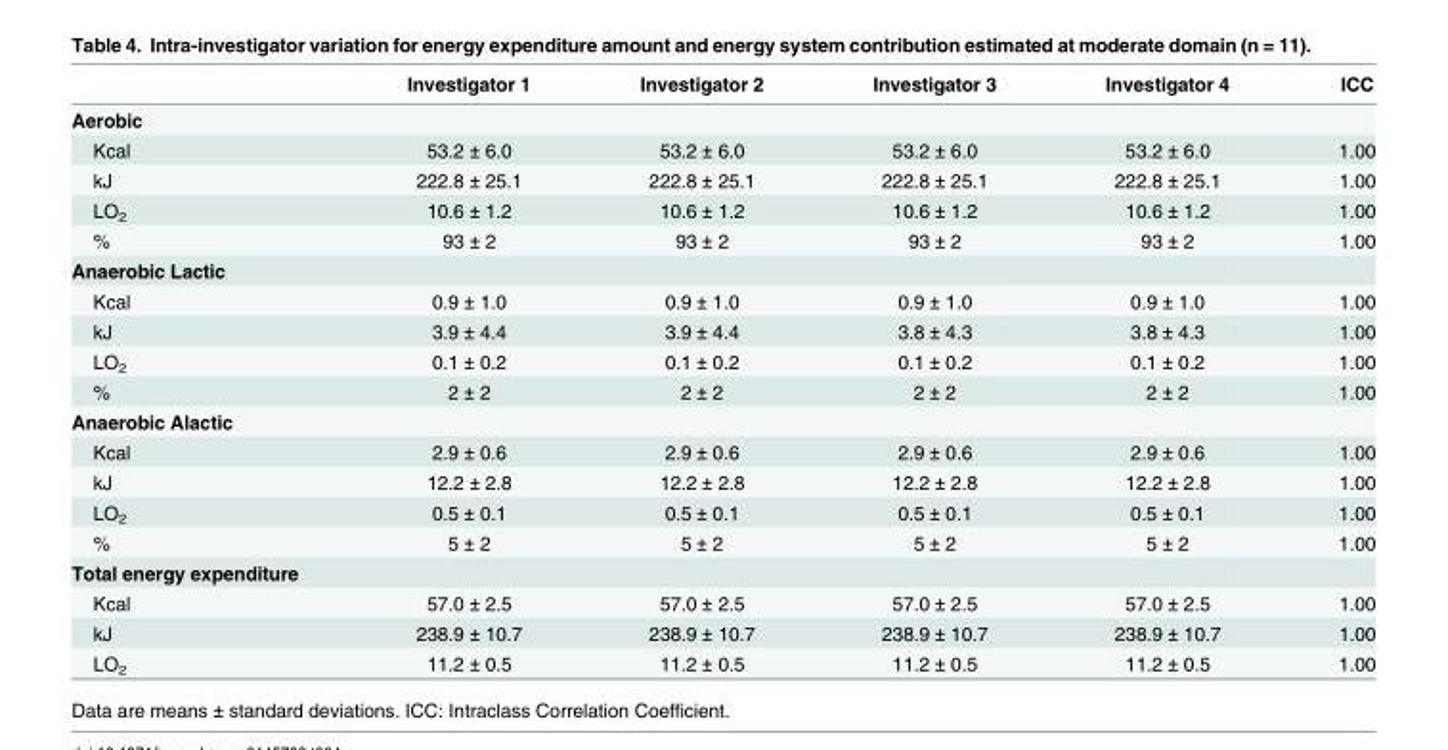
<table><thead><tr><td></td><td>Investigator 1</td><td>Investigator 2</td><td>Investigator 3</td><td>Investigator 4</td><td>ICC</td></tr></thead><tbody><tr><td colspan="6">Aerobic</td></tr><tr><td>Kcal</td><td>53.2 ± 6.0</td><td>53.2 ± 6.0</td><td>53.2 ± 6.0</td><td>53.2 ± 6.0</td><td>1.00</td></tr><tr><td>kJ</td><td>222.8 ± 25.1</td><td>222.8 ± 25.1</td><td>222.8 ± 25.1</td><td>222.8 ± 25.1</td><td>1.00</td></tr><tr><td>LO<sub>2</sub></td><td>10.6 ± 1.2</td><td>10.6 ± 1.2</td><td>10.6 ± 1.2</td><td>10.6 ± 1.2</td><td>1.00</td></tr><tr><td>%</td><td>93 ± 2</td><td>93 ± 2</td><td>93 ± 2</td><td>93 ± 2</td><td>1.00</td></tr><tr><td colspan="6">Anaerobic Lactic</td></tr><tr><td>Kcal</td><td>0.9 ± 1.0</td><td>0.9 ± 1.0</td><td>0.9 ± 1.0</td><td>0.9 ± 1.0</td><td>1.00</td></tr><tr><td>kJ</td><td>3.9 ± 4.4</td><td>3.9 ± 4.4</td><td>3.8 ± 4.3</td><td>3.8 ± 4.3</td><td>1.00</td></tr><tr><td>LO<sub>2</sub></td><td>0.1 ± 0.2</td><td>0.1 ± 0.2</td><td>0.1 ± 0.2</td><td>0.1 ± 0.2</td><td>1.00</td></tr><tr><td>%</td><td>2 ± 2</td><td>2 ± 2</td><td>2 ± 2</td><td>2 ± 2</td><td>1.00</td></tr><tr><td colspan="6">Anaerobic Alactic</td></tr><tr><td>Kcal</td><td>2.9 ± 0.6</td><td>2.9 ± 0.6</td><td>2.9 ± 0.6</td><td>2.9 ± 0.6</td><td>1.00</td></tr><tr><td>kJ</td><td>12.2 ± 2.8</td><td>12.2 ± 2.8</td><td>12.2 ± 2.8</td><td>12.2 ± 2.8</td><td>1.00</td></tr><tr><td>LO<sub>2</sub></td><td>0.5 ± 0.1</td><td>0.5 ± 0.1</td><td>0.5 ± 0.1</td><td>0.5 ± 0.1</td><td>1.00</td></tr><tr><td>%</td><td>5 ± 2</td><td>5 ± 2</td><td>5 ± 2</td><td>5 ± 2</td><td>1.00</td></tr><tr><td colspan="6">Total energy expenditure</td></tr><tr><td>Kcal</td><td>57.0 ± 2.5</td><td>57.0 ± 2.5</td><td>57.0 ± 2.5</td><td>57.0 ± 2.5</td><td>1.00</td></tr><tr><td>kJ</td><td>238.9 ± 10.7</td><td>238.9 ± 10.7</td><td>238.9 ± 10.7</td><td>238.9 ± 10.7</td><td>1.00</td></tr><tr><td>LO<sub>2</sub></td><td>11.2 ± 0.5</td><td>11.2 ± 0.5</td><td>11.2 ± 0.5</td><td>11.2 ± 0.5</td><td>1.00</td></tr></tbody></table>